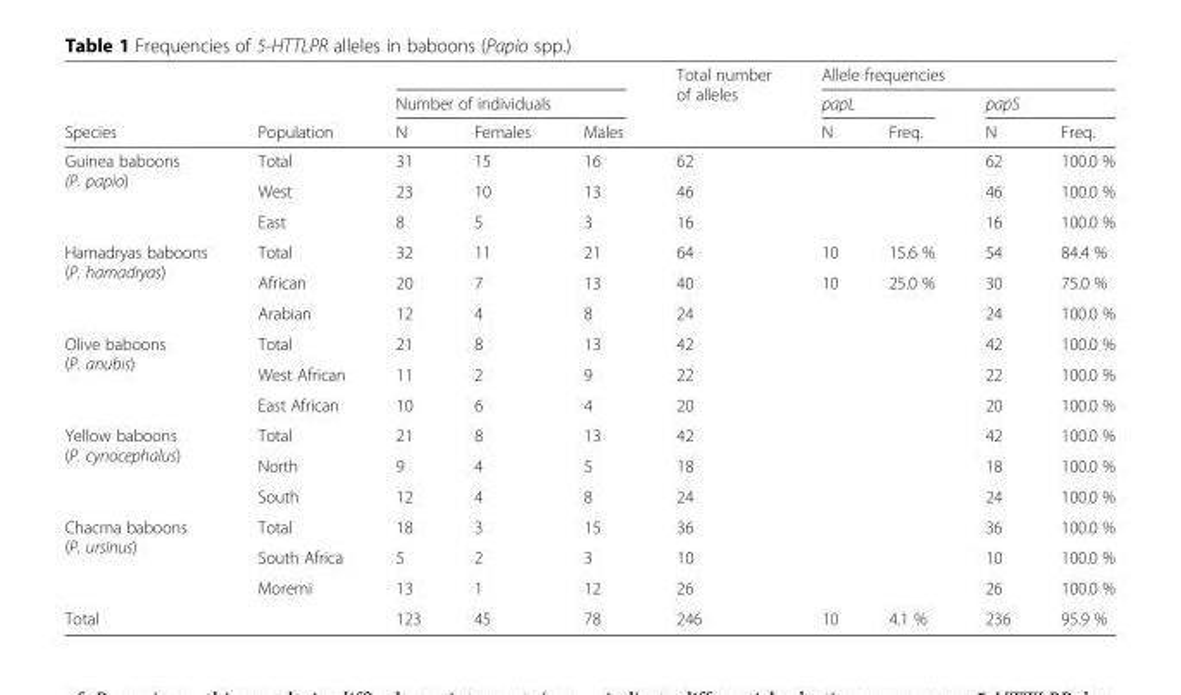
<table><thead><tr><td rowspan="3">Species</td><td rowspan="3">Population</td><td></td><td></td><td></td><td rowspan="3">Total number of alleles</td><td colspan="4">Allele frequencies</td></tr><tr><td colspan="3">Number of individuals</td><td colspan="2">papL</td><td colspan="2">papS</td></tr><tr><td>N</td><td>Females</td><td>Males</td><td>N</td><td>Freq.</td><td>N</td><td>Freq.</td></tr></thead><tbody><tr><td rowspan="3">Guinea baboons (P. papio)</td><td>Total</td><td>31</td><td>15</td><td>16</td><td>62</td><td></td><td></td><td>62</td><td>100.0 %</td></tr><tr><td>West</td><td>23</td><td>10</td><td>13</td><td>46</td><td></td><td></td><td>46</td><td>100.0 %</td></tr><tr><td>East</td><td>8</td><td>5</td><td>3</td><td>16</td><td></td><td></td><td>16</td><td>100.0 %</td></tr><tr><td rowspan="3">Hamadryas baboons (P. hamadryas)</td><td>Total</td><td>32</td><td>11</td><td>21</td><td>64</td><td>10</td><td>15.6 %</td><td>54</td><td>84.4 %</td></tr><tr><td>African</td><td>20</td><td>7</td><td>13</td><td>40</td><td>10</td><td>25.0 %</td><td>30</td><td>75.0 %</td></tr><tr><td>Arabian</td><td>12</td><td>4</td><td>8</td><td>24</td><td></td><td></td><td>24</td><td>100.0 %</td></tr><tr><td rowspan="3">Olive baboons (P. anubis)</td><td>Total</td><td>21</td><td>8</td><td>13</td><td>42</td><td></td><td></td><td>42</td><td>100.0 %</td></tr><tr><td>West African</td><td>11</td><td>2</td><td>9</td><td>22</td><td></td><td></td><td>22</td><td>100.0 %</td></tr><tr><td>East African</td><td>10</td><td>6</td><td>4</td><td>20</td><td></td><td></td><td>20</td><td>100.0 %</td></tr><tr><td rowspan="3">Yellow baboons (P. cynocephalus)</td><td>Total</td><td>21</td><td>8</td><td>13</td><td>42</td><td></td><td></td><td>42</td><td>100.0 %</td></tr><tr><td>North</td><td>9</td><td>4</td><td>5</td><td>18</td><td></td><td></td><td>18</td><td>100.0 %</td></tr><tr><td>South</td><td>12</td><td>4</td><td>8</td><td>24</td><td></td><td></td><td>24</td><td>100.0 %</td></tr><tr><td rowspan="3">Chacma baboons (P. ursinus)</td><td>Total</td><td>18</td><td>3</td><td>15</td><td>36</td><td></td><td></td><td>36</td><td>100.0 %</td></tr><tr><td>South Africa</td><td>5</td><td>2</td><td>3</td><td>10</td><td></td><td></td><td>10</td><td>100.0 %</td></tr><tr><td>Moremi</td><td>13</td><td>1</td><td>12</td><td>26</td><td></td><td></td><td>26</td><td>100.0 %</td></tr><tr><td>Total</td><td></td><td>123</td><td>45</td><td>78</td><td>246</td><td>10</td><td>4.1 %</td><td>236</td><td>95.9 %</td></tr></tbody></table>